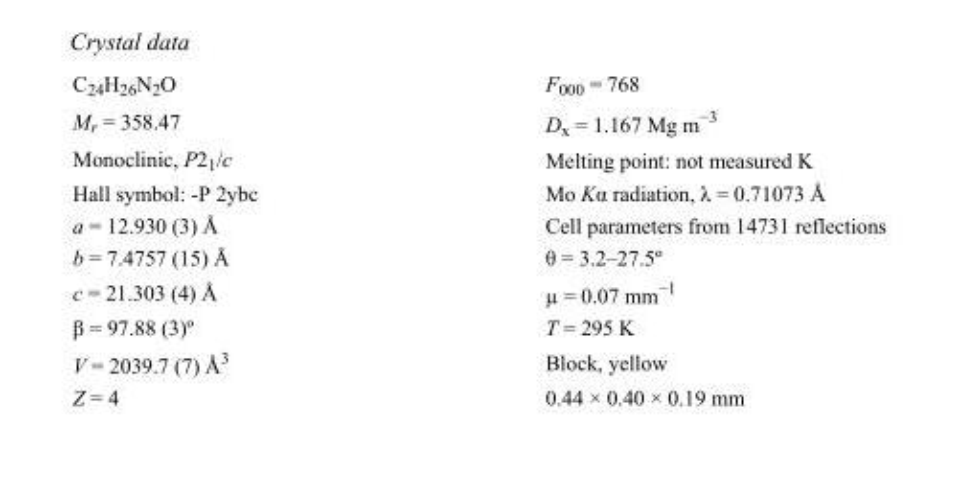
<table><tbody><tr><td>C<sub>24</sub>H<sub>26</sub>N<sub>2</sub>O</td><td>F000 = 768</td></tr><tr><td>M<sub>r</sub> = 358.47</td><td>D<sub>x</sub> = 1.167 Mg m<sup>−3</sup></td></tr><tr><td>Monoclinic, P2<sub>1</sub>/c</td><td>Melting point: not measured K</td></tr><tr><td>Hall symbol: -P 2ybc</td><td>Mo Kα radiation, λ = 0.71073 Å</td></tr><tr><td>a = 12.930 (3) Å</td><td>Cell parameters from 14731 reflections</td></tr><tr><td>b = 7.4757 (15) Å</td><td>θ = 3.2–27.5º</td></tr><tr><td>c = 21.303 (4) Å</td><td>µ = 0.07 mm<sup>−1</sup></td></tr><tr><td>β = 97.88 (3)º</td><td>T = 295 K</td></tr><tr><td>V = 2039.7 (7) Å<sup>3</sup></td><td>Block, yellow</td></tr><tr><td>Z = 4</td><td>0.44 × 0.40 × 0.19 mm</td></tr></tbody></table>